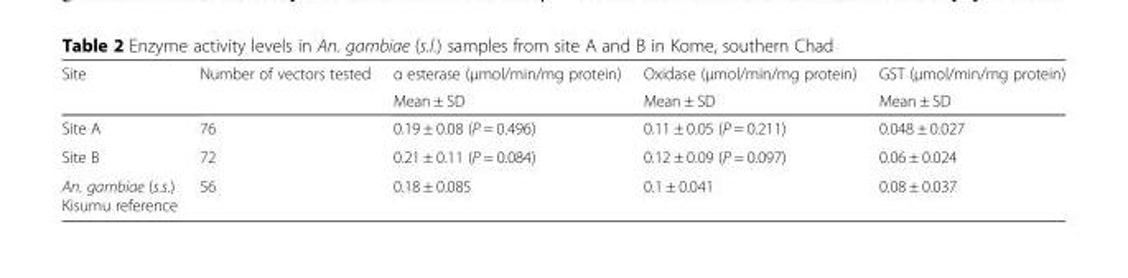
<table><thead><tr><td rowspan="2">Site</td><td rowspan="2">Number of vectors tested</td><td rowspan="2">α esterase (μmol/min/mg protein) Mean ± SD</td><td rowspan="2">Oxidase (μmol/min/mg protein) Mean ± SD</td><td rowspan="2">GST (μmol/min/mg protein) Mean ± SD</td></tr><tr></tr></thead><tbody><tr><td>Site A</td><td>76</td><td>0.19 ± 0.08 (P = 0.496)</td><td>0.11 ± 0.05 (P = 0.211)</td><td>0.048 ± 0.027</td></tr><tr><td>Site B</td><td>72</td><td>0.21 ± 0.11 (P = 0.084)</td><td>0.12 ± 0.09 (P = 0.097)</td><td>0.06 ± 0.024</td></tr><tr><td>An. gambiae (s.s.) Kisumu reference</td><td>56</td><td>0.18 ± 0.085</td><td>0.1 ± 0.041</td><td>0.08 ± 0.037</td></tr></tbody></table>